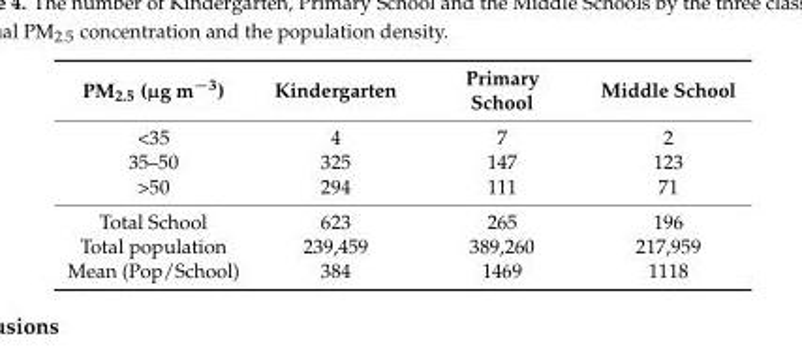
<table><thead><tr><td>PM<sub>2.5</sub> (µg m<sup>−3</sup>)</td><td>Kindergarten</td><td>Primary School</td><td>Middle School</td></tr></thead><tbody><tr><td>&lt;35</td><td>4</td><td>7</td><td>2</td></tr><tr><td>35–50</td><td>325</td><td>147</td><td>123</td></tr><tr><td>&gt;50</td><td>294</td><td>111</td><td>71</td></tr><tr><td>Total School</td><td>623</td><td>265</td><td>196</td></tr><tr><td>Total population</td><td>239,459</td><td>389,260</td><td>217,959</td></tr><tr><td>Mean (Pop/School)</td><td>384</td><td>1469</td><td>1118</td></tr></tbody></table>